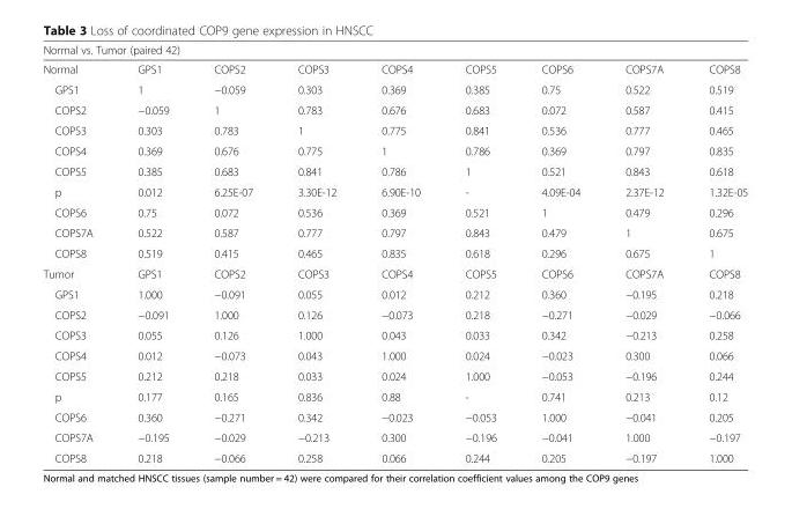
<table><thead><tr><td colspan="9">Normal vs. Tumor (paired 42)</td></tr><tr><td>Normal</td><td>GPS1</td><td>COPS2</td><td>COPS3</td><td>COPS4</td><td>COPS5</td><td>COPS6</td><td>COPS7A</td><td>COPS8</td></tr></thead><tbody><tr><td>GPS1</td><td>1</td><td>−0.059</td><td>0.303</td><td>0.369</td><td>0.385</td><td>0.75</td><td>0.522</td><td>0.519</td></tr><tr><td>COPS2</td><td>−0.059</td><td>1</td><td>0.783</td><td>0.676</td><td>0.683</td><td>0.072</td><td>0.587</td><td>0.415</td></tr><tr><td>COPS3</td><td>0.303</td><td>0.783</td><td>1</td><td>0.775</td><td>0.841</td><td>0.536</td><td>0.777</td><td>0.465</td></tr><tr><td>COPS4</td><td>0.369</td><td>0.676</td><td>0.775</td><td>1</td><td>0.786</td><td>0.369</td><td>0.797</td><td>0.835</td></tr><tr><td>COPS5</td><td>0.385</td><td>0.683</td><td>0.841</td><td>0.786</td><td>1</td><td>0.521</td><td>0.843</td><td>0.618</td></tr><tr><td>p</td><td>0.012</td><td>6.25E-07</td><td>3.30E-12</td><td>6.90E-10</td><td>-</td><td>4.09E-04</td><td>2.37E-12</td><td>1.32E-05</td></tr><tr><td>COPS6</td><td>0.75</td><td>0.072</td><td>0.536</td><td>0.369</td><td>0.521</td><td>1</td><td>0.479</td><td>0.296</td></tr><tr><td>COPS7A</td><td>0.522</td><td>0.587</td><td>0.777</td><td>0.797</td><td>0.843</td><td>0.479</td><td>1</td><td>0.675</td></tr><tr><td>COPS8</td><td>0.519</td><td>0.415</td><td>0.465</td><td>0.835</td><td>0.618</td><td>0.296</td><td>0.675</td><td>1</td></tr><tr><td>Tumor</td><td>GPS1</td><td>COPS2</td><td>COPS3</td><td>COPS4</td><td>COPS5</td><td>COPS6</td><td>COPS7A</td><td>COPS8</td></tr><tr><td>GPS1</td><td>1.000</td><td>−0.091</td><td>0.055</td><td>0.012</td><td>0.212</td><td>0.360</td><td>−0.195</td><td>0.218</td></tr><tr><td>COPS2</td><td>−0.091</td><td>1.000</td><td>0.126</td><td>−0.073</td><td>0.218</td><td>−0.271</td><td>−0.029</td><td>−0.066</td></tr><tr><td>COPS3</td><td>0.055</td><td>0.126</td><td>1.000</td><td>0.043</td><td>0.033</td><td>0.342</td><td>−0.213</td><td>0.258</td></tr><tr><td>COPS4</td><td>0.012</td><td>−0.073</td><td>0.043</td><td>1.000</td><td>0.024</td><td>−0.023</td><td>0.300</td><td>0.066</td></tr><tr><td>COPS5</td><td>0.212</td><td>0.218</td><td>0.033</td><td>0.024</td><td>1.000</td><td>−0.053</td><td>−0.196</td><td>0.244</td></tr><tr><td>p</td><td>0.177</td><td>0.165</td><td>0.836</td><td>0.88</td><td>-</td><td>0.741</td><td>0.213</td><td>0.12</td></tr><tr><td>COPS6</td><td>0.360</td><td>−0.271</td><td>0.342</td><td>−0.023</td><td>−0.053</td><td>1.000</td><td>−0.041</td><td>0.205</td></tr><tr><td>COPS7A</td><td>−0.195</td><td>−0.029</td><td>−0.213</td><td>0.300</td><td>−0.196</td><td>−0.041</td><td>1.000</td><td>−0.197</td></tr><tr><td>COPS8</td><td>0.218</td><td>−0.066</td><td>0.258</td><td>0.066</td><td>0.244</td><td>0.205</td><td>−0.197</td><td>1.000</td></tr></tbody></table>